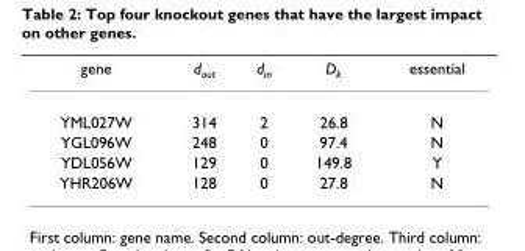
<table><thead><tr><td>gene</td><td>d<sub>out</sub></td><td>d<sub>in</sub></td><td>D<sub>k</sub></td><td>essential</td></tr></thead><tbody><tr><td>YML027W</td><td>314</td><td>2</td><td>26.8</td><td>N</td></tr><tr><td>YGL096W</td><td>248</td><td>0</td><td>97.4</td><td>N</td></tr><tr><td>YDL056W</td><td>129</td><td>0</td><td>149.8</td><td>Y</td></tr><tr><td>YHR206W</td><td>128</td><td>0</td><td>27.8</td><td>N</td></tr></tbody></table>